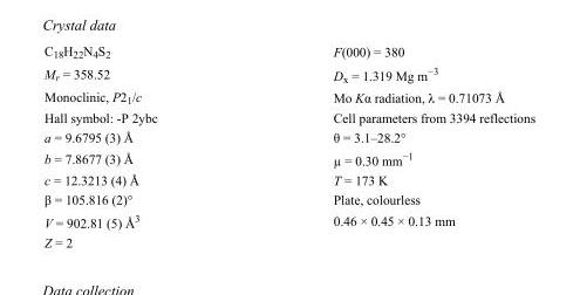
<table><tbody><tr><td>C<sub>18</sub>H<sub>22</sub>N<sub>4</sub>S<sub>2</sub></td><td>F(000) = 380</td></tr><tr><td>M<sub>r</sub> = 358.52</td><td>D<sub>x</sub> = 1.319 Mg m<sup>−3</sup></td></tr><tr><td>Monoclinic, P2<sub>1</sub>/c</td><td>Mo Kα radiation, λ = 0.71073 Å</td></tr><tr><td>Hall symbol: -P 2ybc</td><td>Cell parameters from 3394 reflections</td></tr><tr><td>a = 9.6795 (3) Å</td><td>θ = 3.1–28.2°</td></tr><tr><td>b = 7.8677 (3) Å</td><td>µ = 0.30 mm<sup>−1</sup></td></tr><tr><td>c = 12.3213 (4) Å</td><td>T = 173 K</td></tr><tr><td>β = 105.816 (2)°</td><td>Plate, colourless</td></tr><tr><td>V = 902.81 (5) Å<sup>3</sup></td><td>0.46 × 0.45 × 0.13 mm</td></tr><tr><td>Z = 2</td><td></td></tr></tbody></table>